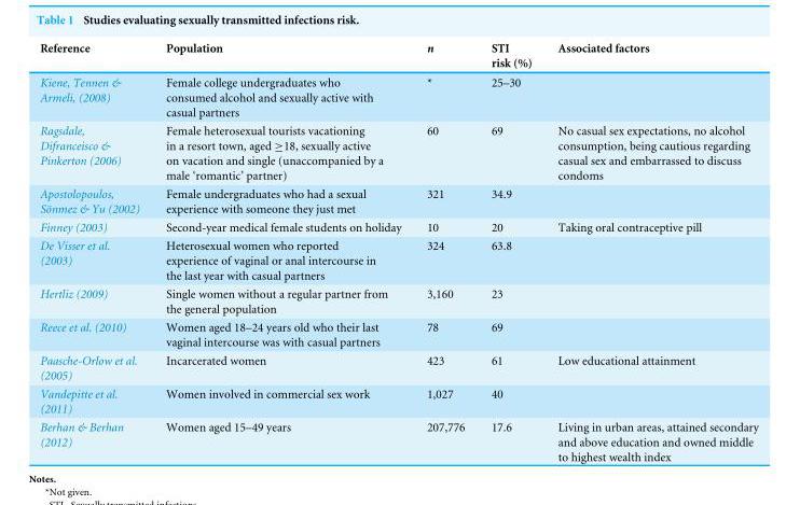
<table><thead><tr><td>Reference</td><td>Population</td><td>n</td><td>STI risk (%)</td><td>Associated factors</td></tr></thead><tbody><tr><td>Kiene, Tennen &amp; Armeli, (2008)</td><td>Female college undergraduates who consumed alcohol and sexually active with casual partners</td><td>*</td><td>25–30</td><td></td></tr><tr><td>Ragsdale, Difranceisco &amp; Pinkerton (2006)</td><td>Female heterosexual tourists vacationing in a resort town, aged ≥18, sexually active on vacation and single (unaccompanied by a male ‘romantic’ partner)</td><td>60</td><td>69</td><td>No casual sex expectations, no alcohol consumption, being cautious regarding casual sex and embarrassed to discuss condoms</td></tr><tr><td>Apostolopoulos, Sönmez &amp; Yu (2002)</td><td>Female undergraduates who had a sexual experience with someone they just met</td><td>321</td><td>34.9</td><td></td></tr><tr><td>Finney (2003)</td><td>Second-year medical female students on holiday</td><td>10</td><td>20</td><td>Taking oral contraceptive pill</td></tr><tr><td>De Visser et al. (2003)</td><td>Heterosexual women who reported experience of vaginal or anal intercourse in the last year with casual partners</td><td>324</td><td>63.8</td><td></td></tr><tr><td>Hertliz (2009)</td><td>Single women without a regular partner from the general population</td><td>3,160</td><td>23</td><td></td></tr><tr><td>Reece et al. (2010)</td><td>Women aged 18–24 years old who their last vaginal intercourse was with casual partners</td><td>78</td><td>69</td><td></td></tr><tr><td>Paasche-Orlow et al. (2005)</td><td>Incarcerated women</td><td>423</td><td>61</td><td>Low educational attainment</td></tr><tr><td>Vandepitte et al. (2011)</td><td>Women involved in commercial sex work</td><td>1,027</td><td>40</td><td></td></tr><tr><td>Berhan &amp; Berhan (2012)</td><td>Women aged 15–49 years</td><td>207,776</td><td>17.6</td><td>Living in urban areas, attained secondary and above education and owned middle to highest wealth index</td></tr></tbody></table>